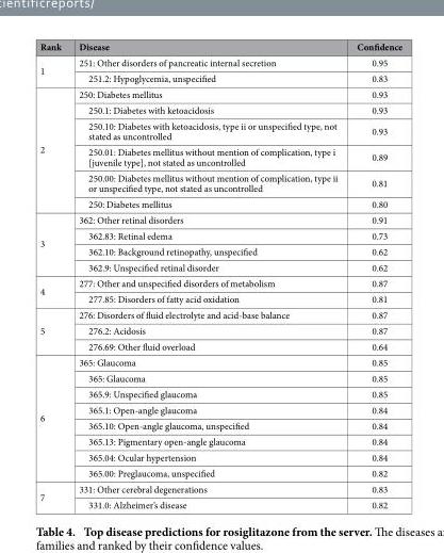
<table><thead><tr><td>Rank</td><td>Disease</td><td>Confidence</td></tr></thead><tbody><tr><td rowspan="2">1</td><td>251: Other disorders of pancreatic internal secretion</td><td>0.95</td></tr><tr><td>251.2: Hypoglycemia, unspecified</td><td>0.83</td></tr><tr><td rowspan="6">2</td><td>250: Diabetes mellitus</td><td>0.93</td></tr><tr><td>250.1: Diabetes with ketoacidosis</td><td>0.93</td></tr><tr><td>250.10: Diabetes with ketoacidosis, type ii or unspecified type, not stated as uncontrolled</td><td>0.93</td></tr><tr><td>250.01: Diabetes mellitus without mention of complication, type i [juvenile type], not stated as uncontrolled</td><td>0.89</td></tr><tr><td>250.00: Diabetes mellitus without mention of complication, type ii or unspecified type, not stated as uncontrolled</td><td>0.81</td></tr><tr><td>250: Diabetes mellitus</td><td>0.80</td></tr><tr><td rowspan="4">3</td><td>362: Other retinal disorders</td><td>0.91</td></tr><tr><td>362.83: Retinal edema</td><td>0.73</td></tr><tr><td>362.10: Background retinopathy, unspecified</td><td>0.62</td></tr><tr><td>362.9: Unspecified retinal disorder</td><td>0.62</td></tr><tr><td rowspan="2">4</td><td>277: Other and unspecified disorders of metabolism</td><td>0.87</td></tr><tr><td>277.85: Disorders of fatty acid oxidation</td><td>0.81</td></tr><tr><td rowspan="3">5</td><td>276: Disorders of fluid electrolyte and acid-base balance</td><td>0.87</td></tr><tr><td>276.2: Acidosis</td><td>0.87</td></tr><tr><td>276.69: Other fluid overload</td><td>0.64</td></tr><tr><td rowspan="8">6</td><td>365: Glaucoma</td><td>0.85</td></tr><tr><td>365: Glaucoma</td><td>0.85</td></tr><tr><td>365.9: Unspecified glaucoma</td><td>0.85</td></tr><tr><td>365.1: Open-angle glaucoma</td><td>0.84</td></tr><tr><td>365.10: Open-angle glaucoma, unspecified</td><td>0.84</td></tr><tr><td>365.13: Pigmentary open-angle glaucoma</td><td>0.84</td></tr><tr><td>365.04: Ocular hypertension</td><td>0.84</td></tr><tr><td>365.00: Preglaucoma, unspecified</td><td>0.82</td></tr><tr><td rowspan="2">7</td><td>331: Other cerebral degenerations</td><td>0.83</td></tr><tr><td>331.0: Alzheimer’s disease</td><td>0.82</td></tr></tbody></table>